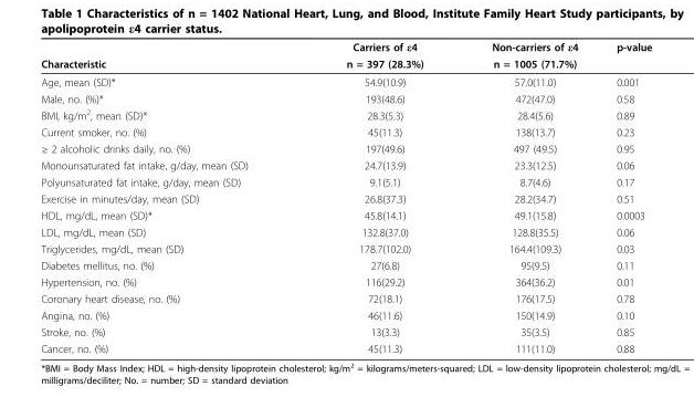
<table><thead><tr><td rowspan="2">Characteristic</td><td rowspan="2">Carriers of ε4 n = 397 (28.3%)</td><td rowspan="2">Non-carriers of ε4 n = 1005 (71.7%)</td><td rowspan="2">p-value</td></tr><tr></tr></thead><tbody><tr><td>Age, mean (SD)*</td><td>54.9(10.9)</td><td>57.0(11.0)</td><td>0.001</td></tr><tr><td>Male, no. (%)*</td><td>193(48.6)</td><td>472(47.0)</td><td>0.58</td></tr><tr><td>BMI, kg/m<sup>2</sup>, mean (SD)*</td><td>28.3(5.3)</td><td>28.4(5.6)</td><td>0.89</td></tr><tr><td>Current smoker, no. (%)</td><td>45(11.3)</td><td>138(13.7)</td><td>0.23</td></tr><tr><td>≥ 2 alcoholic drinks daily, no. (%)</td><td>197(49.6)</td><td>497 (49.5)</td><td>0.95</td></tr><tr><td>Monounsaturated fat intake, g/day, mean (SD)</td><td>24.7(13.9)</td><td>23.3(12.5)</td><td>0.06</td></tr><tr><td>Polyunsaturated fat intake, g/day, mean (SD)</td><td>9.1(5.1)</td><td>8.7(4.6)</td><td>0.17</td></tr><tr><td>Exercise in minutes/day, mean (SD)</td><td>26.8(37.3)</td><td>28.2(34.7)</td><td>0.51</td></tr><tr><td>HDL, mg/dL, mean (SD)*</td><td>45.8(14.1)</td><td>49.1(15.8)</td><td>0.0003</td></tr><tr><td>LDL, mg/dL, mean (SD)</td><td>132.8(37.0)</td><td>128.8(35.5)</td><td>0.06</td></tr><tr><td>Triglycerides, mg/dL, mean (SD)</td><td>178.7(102.0)</td><td>164.4(109.3)</td><td>0.03</td></tr><tr><td>Diabetes mellitus, no. (%)</td><td>27(6.8)</td><td>95(9.5)</td><td>0.11</td></tr><tr><td>Hypertension, no. (%)</td><td>116(29.2)</td><td>364(36.2)</td><td>0.01</td></tr><tr><td>Coronary heart disease, no. (%)</td><td>72(18.1)</td><td>176(17.5)</td><td>0.78</td></tr><tr><td>Angina, no. (%)</td><td>46(11.6)</td><td>150(14.9)</td><td>0.10</td></tr><tr><td>Stroke, no. (%)</td><td>13(3.3)</td><td>35(3.5)</td><td>0.85</td></tr><tr><td>Cancer, no. (%)</td><td>45(11.3)</td><td>111(11.0)</td><td>0.88</td></tr></tbody></table>